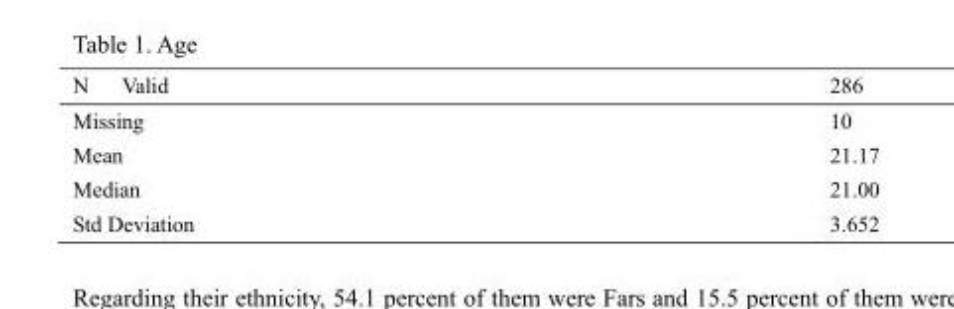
<table><thead><tr><td>N Valid</td><td>286</td></tr></thead><tbody><tr><td>Missing</td><td>10</td></tr><tr><td>Mean</td><td>21.17</td></tr><tr><td>Median</td><td>21.00</td></tr><tr><td>Std Deviation</td><td>3.652</td></tr></tbody></table>